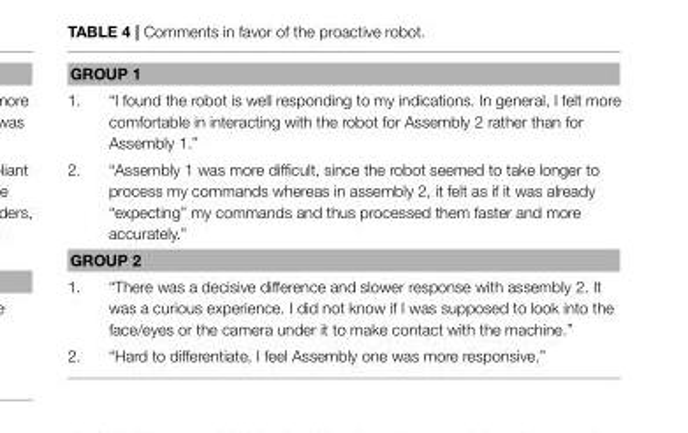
<table><tbody><tr><td colspan="2">GROUP 1</td></tr><tr><td>1.</td><td>“I found the robot is well responding to my indications. In general, I felt more comfortable in interacting with the robot for Assembly 2 rather than for Assembly 1.”</td></tr><tr><td>2.</td><td>“Assembly 1 was more difficult, since the robot seemed to take longer to process my commands whereas in assembly 2, it felt as if it was already “expecting” my commands and thus processed them faster and more accurately.”</td></tr><tr><td colspan="2">GROUP 2</td></tr><tr><td>1.</td><td>“There was a decisive difference and slower response with assembly 2. It was a curious experience. I did not know if I was supposed to look into the face/eyes or the camera under it to make contact with the machine.”</td></tr><tr><td>2.</td><td>“Hard to differentiate, I feel Assembly one was more responsive.”</td></tr></tbody></table>